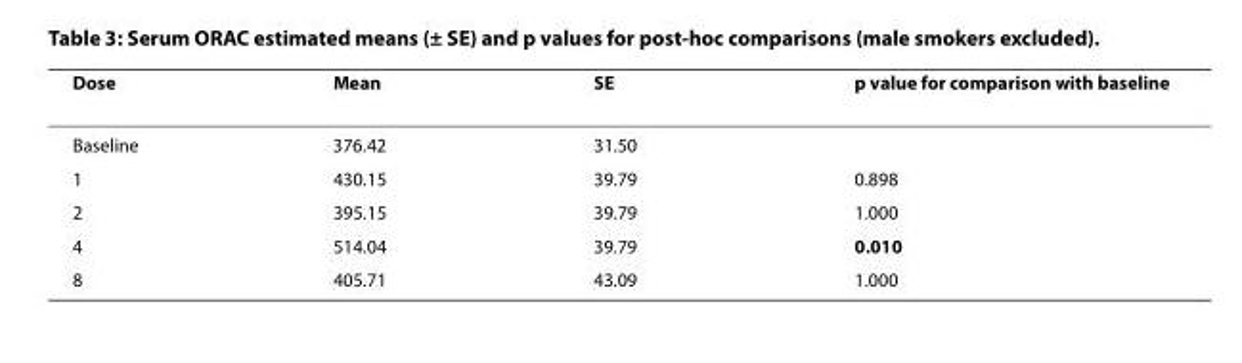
<table><thead><tr><td>Dose</td><td>Mean</td><td>SE</td><td>p value for comparison with baseline</td></tr></thead><tbody><tr><td>Baseline</td><td>376.42</td><td>31.50</td><td></td></tr><tr><td>1</td><td>430.15</td><td>39.79</td><td>0.898</td></tr><tr><td>2</td><td>395.15</td><td>39.79</td><td>1.000</td></tr><tr><td>4</td><td>514.04</td><td>39.79</td><td>0.010</td></tr><tr><td>8</td><td>405.71</td><td>43.09</td><td>1.000</td></tr></tbody></table>